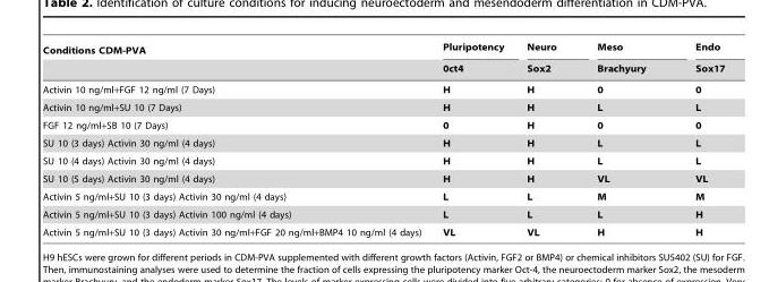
<table><thead><tr><td rowspan="2">Conditions CDM-PVA</td><td rowspan="2">Pluripotency 0ct4</td><td rowspan="2">Neuro Sox2</td><td rowspan="2">Meso Brachyury</td><td rowspan="2">Endo Sox17</td></tr><tr></tr></thead><tbody><tr><td>Activin 10 ng/ml+FGF 12 ng/ml (7 Days)</td><td>H</td><td>H</td><td>0</td><td>0</td></tr><tr><td>Activin 10 ng/ml+SU 10 (7 Days)</td><td>H</td><td>H</td><td>L</td><td>L</td></tr><tr><td>FGF 12 ng/ml+SB 10 (7 Days)</td><td>0</td><td>H</td><td>0</td><td>0</td></tr><tr><td>SU 10 (3 days) Activin 30 ng/ml (4 days)</td><td>H</td><td>H</td><td>L</td><td>L</td></tr><tr><td>SU 10 (4 days) Activin 30 ng/ml (4 days)</td><td>H</td><td>H</td><td>L</td><td>L</td></tr><tr><td>SU 10 (5 days) Activin 30 ng/ml (4 days)</td><td>H</td><td>H</td><td>VL</td><td>VL</td></tr><tr><td>Activin 5 ng/ml+SU 10 (3 days) Activin 30 ng/ml (4 days)</td><td>L</td><td>L</td><td>M</td><td>M</td></tr><tr><td>Activin 5 ng/ml+SU 10 (3 days) Activin 100 ng/ml (4 days)</td><td>L</td><td>L</td><td>L</td><td>H</td></tr><tr><td>Activin 5 ng/ml+SU 10 (3 days) Activin 30 ng/ml+FGF 20 ng/ml+BMP4 10 ng/ml (4 days)</td><td>VL</td><td>VL</td><td>H</td><td>H</td></tr></tbody></table>